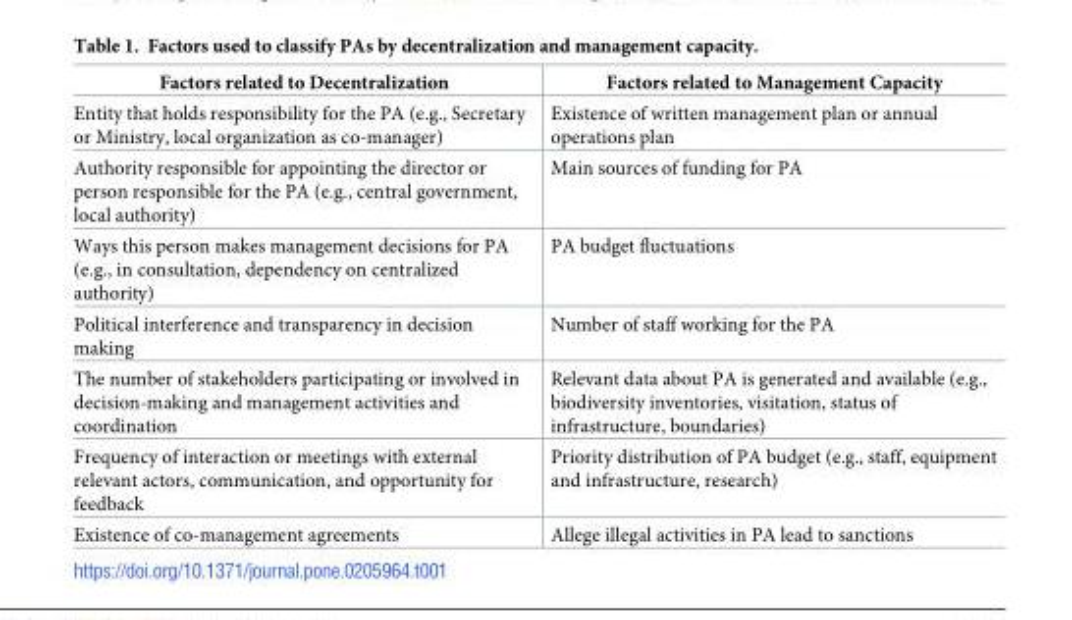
<table><thead><tr><td>Factors related to Decentralization</td><td>Factors related to Management Capacity</td></tr></thead><tbody><tr><td>Entity that holds responsibility for the PA (e.g., Secretary or Ministry, local organization as co-manager)</td><td>Existence of written management plan or annual operations plan</td></tr><tr><td>Authority responsible for appointing the director or person responsible for the PA (e.g., central government, local authority)</td><td>Main sources of funding for PA</td></tr><tr><td>Ways this person makes management decisions for PA (e.g., in consultation, dependency on centralized authority)</td><td>PA budget fluctuations</td></tr><tr><td>Political interference and transparency in decision making</td><td>Number of staff working for the PA</td></tr><tr><td>The number of stakeholders participating or involved in decision-making and management activities and coordination</td><td>Relevant data about PA is generated and available (e.g., biodiversity inventories, visitation, status of infrastructure, boundaries)</td></tr><tr><td>Frequency of interaction or meetings with external relevant actors, communication, and opportunity for feedback</td><td>Priority distribution of PA budget (e.g., staff, equipment and infrastructure, research)</td></tr><tr><td>Existence of co-management agreements</td><td>Allege illegal activities in PA lead to sanctions</td></tr></tbody></table>